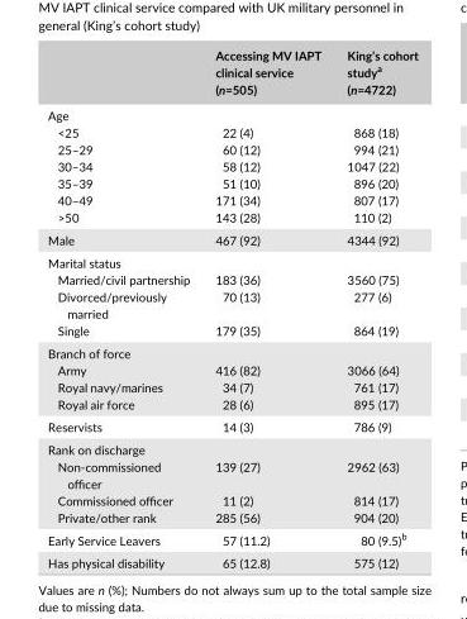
<table><thead><tr><td></td><td>Accessing MV IAPT clinical service (n=505)</td><td>King’s cohort study<sup>a</sup> (n=4722)</td></tr></thead><tbody><tr><td colspan="3">Age</td></tr><tr><td>&lt;25</td><td>22 (4)</td><td>868 (18)</td></tr><tr><td>25–29</td><td>60 (12)</td><td>994 (21)</td></tr><tr><td>30–34</td><td>58 (12)</td><td>1047 (22)</td></tr><tr><td>35–39</td><td>51 (10)</td><td>896 (20)</td></tr><tr><td>40–49</td><td>171 (34)</td><td>807 (17)</td></tr><tr><td>&gt;50</td><td>143 (28)</td><td>110 (2)</td></tr><tr><td>Male</td><td>467 (92)</td><td>4344 (92)</td></tr><tr><td colspan="3">Marital status</td></tr><tr><td>Married/civil partnership</td><td>183 (36)</td><td>3560 (75)</td></tr><tr><td>Divorced/previously married</td><td>70 (13)</td><td>277 (6)</td></tr><tr><td>Single</td><td>179 (35)</td><td>864 (19)</td></tr><tr><td colspan="3">Branch of force</td></tr><tr><td>Army</td><td>416 (82)</td><td>3066 (64)</td></tr><tr><td>Royal navy/marines</td><td>34 (7)</td><td>761 (17)</td></tr><tr><td>Royal air force</td><td>28 (6)</td><td>895 (17)</td></tr><tr><td>Reservists</td><td>14 (3)</td><td>786 (9)</td></tr><tr><td colspan="3">Rank on discharge</td></tr><tr><td>Non- commissioned officer</td><td>139 (27)</td><td>2962 (63)</td></tr><tr><td>Commissioned officer</td><td>11 (2)</td><td>814 (17)</td></tr><tr><td>Private/other rank</td><td>285 (56)</td><td>904 (20)</td></tr><tr><td>Early Service Leavers</td><td>57 (11.2)</td><td>80 (9.5)<sup>b</sup></td></tr><tr><td>Has physical disability</td><td>65 (12.8)</td><td>575 (12)</td></tr></tbody></table>